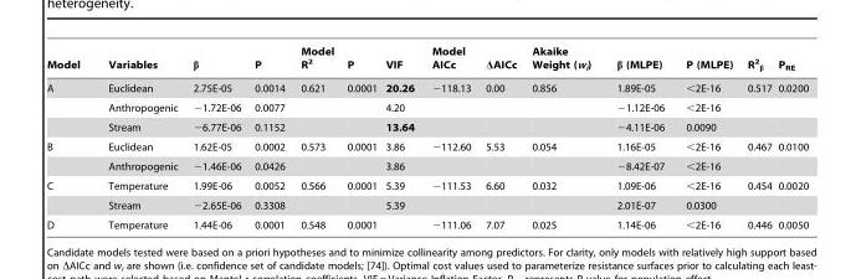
<table><thead><tr><td>Model</td><td>Variables</td><td>β</td><td>P</td><td>Model R<sup>2</sup></td><td>P</td><td>VIF</td><td>Model AICc</td><td>ΔAICc</td><td>Akaike Weight (w<sub>i</sub>)</td><td>β (MLPE)</td><td>P (MLPE)</td><td>R<sup>2</sup> <sub>β</sub></td><td>P<sub>RE</sub></td></tr></thead><tbody><tr><td rowspan="3">A</td><td>Euclidean</td><td>2.75E-05</td><td>0.0014</td><td>0.621</td><td>0.0001</td><td>20.26</td><td>−118.13</td><td>0.00</td><td>0.856</td><td>1.89E-05</td><td>&lt;2E-16</td><td>0.517</td><td>0.0200</td></tr><tr><td>Anthropogenic</td><td>−1.72E-06</td><td>0.0077</td><td></td><td></td><td>4.20</td><td></td><td></td><td></td><td>−1.12E-06</td><td>&lt;2E-16</td><td></td><td></td></tr><tr><td>Stream</td><td>−6.77E-06</td><td>0.1152</td><td></td><td></td><td>13.64</td><td></td><td></td><td></td><td>−4.11E-06</td><td>0.0090</td><td></td><td></td></tr><tr><td rowspan="2">B</td><td>Euclidean</td><td>1.62E-05</td><td>0.0002</td><td>0.573</td><td>0.0001</td><td>3.86</td><td>−112.60</td><td>5.53</td><td>0.054</td><td>1.16E-05</td><td>&lt;2E-16</td><td>0.467</td><td>0.0100</td></tr><tr><td>Anthropogenic</td><td>−1.46E-06</td><td>0.0426</td><td></td><td></td><td>3.86</td><td></td><td></td><td></td><td>−8.42E-07</td><td>&lt;2E-16</td><td></td><td></td></tr><tr><td rowspan="2">C</td><td>Temperature</td><td>1.99E-06</td><td>0.0052</td><td>0.566</td><td>0.0001</td><td>5.39</td><td>−111.53</td><td>6.60</td><td>0.032</td><td>1.09E-06</td><td>&lt;2E-16</td><td>0.454</td><td>0.0020</td></tr><tr><td>Stream</td><td>−2.65E-06</td><td>0.3308</td><td></td><td></td><td>5.39</td><td></td><td></td><td></td><td>2.01E-07</td><td>0.0300</td><td></td><td></td></tr><tr><td>D</td><td>Temperature</td><td>1.44E-06</td><td>0.0001</td><td>0.548</td><td>0.0001</td><td></td><td>−111.06</td><td>7.07</td><td>0.025</td><td>1.14E-06</td><td>&lt;2E-16</td><td>0.446</td><td>0.0050</td></tr></tbody></table>